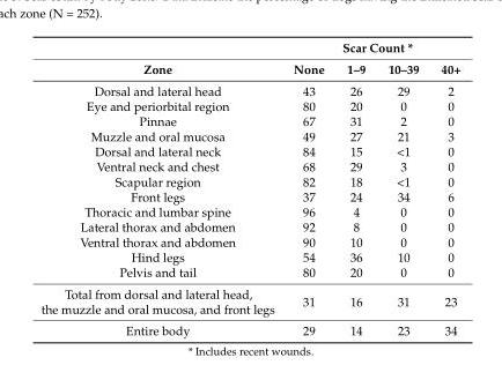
<table><thead><tr><td rowspan="2">Zone</td><td colspan="4">Scar Count *</td></tr><tr><td>None</td><td>1–9</td><td>10–39</td><td>40+</td></tr></thead><tbody><tr><td>Dorsal and lateral head</td><td>43</td><td>26</td><td>29</td><td>2</td></tr><tr><td>Eye and periorbital region</td><td>80</td><td>20</td><td>0</td><td>0</td></tr><tr><td>Pinnae</td><td>67</td><td>31</td><td>2</td><td>0</td></tr><tr><td>Muzzle and oral mucosa</td><td>49</td><td>27</td><td>21</td><td>3</td></tr><tr><td>Dorsal and lateral neck</td><td>84</td><td>15</td><td>&lt;1</td><td>0</td></tr><tr><td>Ventral neck and chest</td><td>68</td><td>29</td><td>3</td><td>0</td></tr><tr><td>Scapular region</td><td>82</td><td>18</td><td>&lt;1</td><td>0</td></tr><tr><td>Front legs</td><td>37</td><td>24</td><td>34</td><td>6</td></tr><tr><td>Thoracic and lumbar spine</td><td>96</td><td>4</td><td>0</td><td>0</td></tr><tr><td>Lateral thorax and abdomen</td><td>92</td><td>8</td><td>0</td><td>0</td></tr><tr><td>Ventral thorax and abdomen</td><td>90</td><td>10</td><td>0</td><td>0</td></tr><tr><td>Hind legs</td><td>54</td><td>36</td><td>10</td><td>0</td></tr><tr><td>Pelvis and tail</td><td>80</td><td>20</td><td>0</td><td>0</td></tr><tr><td>Total from dorsal and lateral head, the muzzle and oral mucosa, and front legs</td><td>31</td><td>16</td><td>31</td><td>23</td></tr><tr><td>Entire body</td><td>29</td><td>14</td><td>23</td><td>34</td></tr></tbody></table>